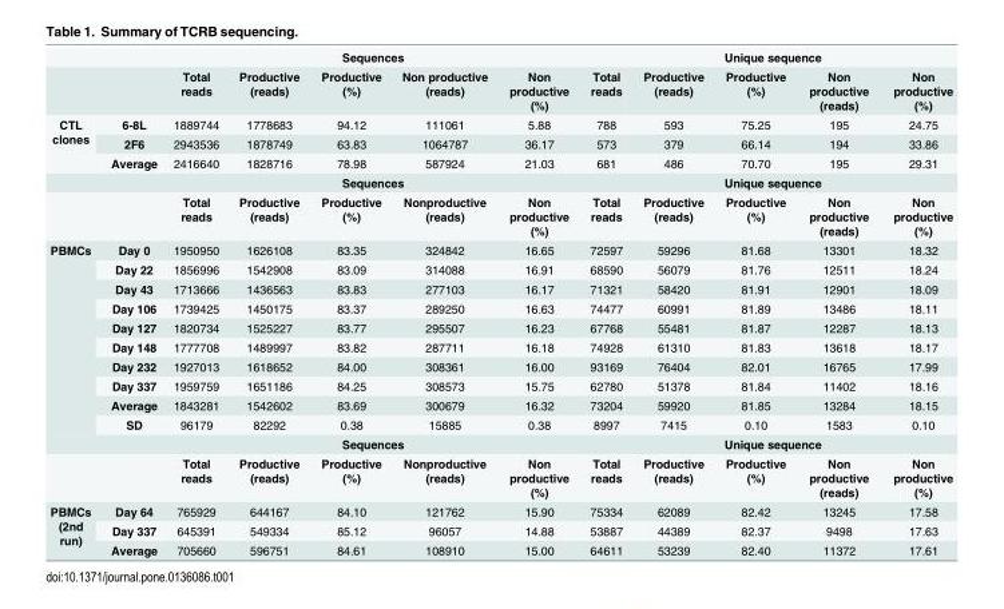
<table><thead><tr><td rowspan="2"></td><td rowspan="2"></td><td colspan="5">Sequences</td><td colspan="5">Unique sequence</td></tr><tr><td>Total reads</td><td>Productive (reads)</td><td>Productive (%)</td><td>Non productive (reads)</td><td>Non productive (%)</td><td>Total reads</td><td>Productive (reads)</td><td>Productive (%)</td><td>Non productive (reads)</td><td>Non productive (%)</td></tr></thead><tbody><tr><td rowspan="5">CTL clones</td><td>6-8L</td><td>1889744</td><td>1778683</td><td>94.12</td><td>111061</td><td>5.88</td><td>788</td><td>593</td><td>75.25</td><td>195</td><td>24.75</td></tr><tr><td>2F6</td><td>2943536</td><td>1878749</td><td>63.83</td><td>1064787</td><td>36.17</td><td>573</td><td>379</td><td>66.14</td><td>194</td><td>33.86</td></tr><tr><td>Average</td><td>2416640</td><td>1828716</td><td>78.98</td><td>587924</td><td>21.03</td><td>681</td><td>486</td><td>70.70</td><td>195</td><td>29.31</td></tr><tr><td></td><td colspan="5">Sequences</td><td colspan="5">Unique sequence</td></tr><tr><td></td><td>Total reads</td><td>Productive (reads)</td><td>Productive (%)</td><td>Nonproductive (reads)</td><td>Non productive (%)</td><td>Total reads</td><td>Productive (reads)</td><td>Productive (%)</td><td>Non productive (reads)</td><td>Non productive (%)</td></tr><tr><td rowspan="12">PBMCs</td><td>Day 0</td><td>1950950</td><td>1626108</td><td>83.35</td><td>324842</td><td>16.65</td><td>72597</td><td>59296</td><td>81.68</td><td>13301</td><td>18.32</td></tr><tr><td>Day 22</td><td>1856996</td><td>1542908</td><td>83.09</td><td>314088</td><td>16.91</td><td>68590</td><td>56079</td><td>81.76</td><td>12511</td><td>18.24</td></tr><tr><td>Day 43</td><td>1713666</td><td>1436563</td><td>83.83</td><td>277103</td><td>16.17</td><td>71321</td><td>58420</td><td>81.91</td><td>12901</td><td>18.09</td></tr><tr><td>Day 106</td><td>1739425</td><td>1450175</td><td>83.37</td><td>289250</td><td>16.63</td><td>74477</td><td>60991</td><td>81.89</td><td>13486</td><td>18.11</td></tr><tr><td>Day 127</td><td>1820734</td><td>1525227</td><td>83.77</td><td>295507</td><td>16.23</td><td>67768</td><td>55481</td><td>81.87</td><td>12287</td><td>18.13</td></tr><tr><td>Day 148</td><td>1777708</td><td>1489997</td><td>83.82</td><td>287711</td><td>16.18</td><td>74928</td><td>61310</td><td>81.83</td><td>13618</td><td>18.17</td></tr><tr><td>Day 232</td><td>1927013</td><td>1618652</td><td>84.00</td><td>308361</td><td>16.00</td><td>93169</td><td>76404</td><td>82.01</td><td>16765</td><td>17.99</td></tr><tr><td>Day 337</td><td>1959759</td><td>1651186</td><td>84.25</td><td>308573</td><td>15.75</td><td>62780</td><td>51378</td><td>81.84</td><td>11402</td><td>18.16</td></tr><tr><td>Average</td><td>1843281</td><td>1542602</td><td>83.69</td><td>300679</td><td>16.32</td><td>73204</td><td>59920</td><td>81.85</td><td>13284</td><td>18.15</td></tr><tr><td>SD</td><td>96179</td><td>82292</td><td>0.38</td><td>15885</td><td>0.38</td><td>8997</td><td>7415</td><td>0.10</td><td>1583</td><td>0.10</td></tr><tr><td></td><td colspan="5">Sequences</td><td colspan="5">Unique sequence</td></tr><tr><td></td><td>Total reads</td><td>Productive (reads)</td><td>Productive (%)</td><td>Nonproductive (reads)</td><td>Non productive (%)</td><td>Total reads</td><td>Productive (reads)</td><td>Productive (%)</td><td>Non productive (reads)</td><td>Non productive (%)</td></tr><tr><td rowspan="3">PBMCs (2nd run)</td><td>Day 64</td><td>765929</td><td>644167</td><td>84.10</td><td>121762</td><td>15.90</td><td>75334</td><td>62089</td><td>82.42</td><td>13245</td><td>17.58</td></tr><tr><td>Day 337</td><td>645391</td><td>549334</td><td>85.12</td><td>96057</td><td>14.88</td><td>53887</td><td>44389</td><td>82.37</td><td>9498</td><td>17.63</td></tr><tr><td>Average</td><td>705660</td><td>596751</td><td>84.61</td><td>108910</td><td>15.00</td><td>64611</td><td>53239</td><td>82.40</td><td>11372</td><td>17.61</td></tr></tbody></table>